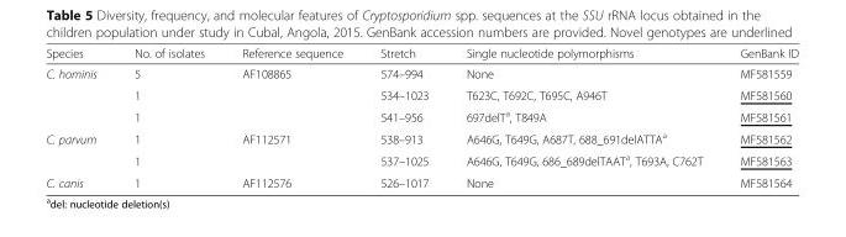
<table><thead><tr><td>Species</td><td>No. of isolates</td><td>Reference sequence</td><td>Stretch</td><td>Single nucleotide polymorphisms</td><td>GenBank ID</td></tr></thead><tbody><tr><td rowspan="3">C. hominis</td><td>5</td><td>AF108865</td><td>574–994</td><td>None</td><td>MF581559</td></tr><tr><td>1</td><td></td><td>534–1023</td><td>T623C, T692C, T695C, A946T</td><td>MF581560</td></tr><tr><td>1</td><td></td><td>541–956</td><td>697delT<sup>a</sup>, T849A</td><td>MF581561</td></tr><tr><td rowspan="2">C. parvum</td><td>1</td><td>AF112571</td><td>538–913</td><td>A646G, T649G, A687T, 688_691delATTA<sup>a</sup></td><td>MF581562</td></tr><tr><td>1</td><td></td><td>537–1025</td><td>A646G, T649G, 686_689delTAAT<sup>a</sup>, T693A, C762T</td><td>MF581563</td></tr><tr><td>C. canis</td><td>1</td><td>AF112576</td><td>526–1017</td><td>None</td><td>MF581564</td></tr></tbody></table>